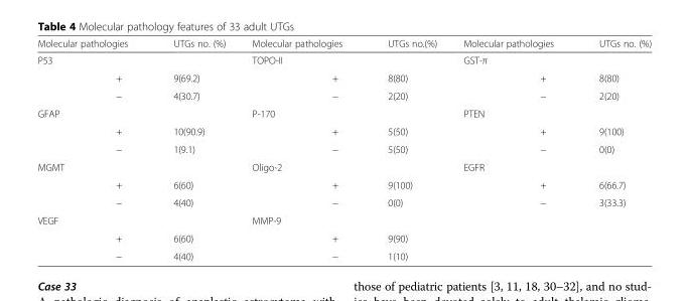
<table><thead><tr><td colspan="2">Molecular pathologies</td><td rowspan="2">UTGs no. (%)</td><td colspan="2">Molecular pathologies</td><td rowspan="2">UTGs no.(%)</td><td colspan="2">Molecular pathologies</td><td rowspan="2">UTGs no. (%)</td></tr><tr><td>P53</td><td></td><td>TOPO-II</td><td></td><td>GST-π</td><td></td></tr></thead><tbody><tr><td></td><td>+</td><td>9(69.2)</td><td></td><td>+</td><td>8(80)</td><td></td><td>+</td><td>8(80)</td></tr><tr><td></td><td>−</td><td>4(30.7)</td><td></td><td>−</td><td>2(20)</td><td></td><td>−</td><td>2(20)</td></tr><tr><td rowspan="3">GFAP</td><td></td><td></td><td>P-170</td><td></td><td></td><td>PTEN</td><td></td><td></td></tr><tr><td>+</td><td>10(90.9)</td><td></td><td>+</td><td>5(50)</td><td></td><td>+</td><td>9(100)</td></tr><tr><td>−</td><td>1(9.1)</td><td></td><td>−</td><td>5(50)</td><td></td><td>−</td><td>0(0)</td></tr><tr><td rowspan="3">MGMT</td><td></td><td></td><td>Oligo-2</td><td></td><td></td><td>EGFR</td><td></td><td></td></tr><tr><td>+</td><td>6(60)</td><td></td><td>+</td><td>9(100)</td><td></td><td>+</td><td>6(66.7)</td></tr><tr><td>−</td><td>4(40)</td><td></td><td>−</td><td>0(0)</td><td></td><td>−</td><td>3(33.3)</td></tr><tr><td rowspan="3">VEGF</td><td></td><td></td><td>MMP-9</td><td></td><td></td><td></td><td></td><td></td></tr><tr><td>+</td><td>6(60)</td><td></td><td>+</td><td>9(90)</td><td></td><td></td><td></td></tr><tr><td>−</td><td>4(40)</td><td></td><td>−</td><td>1(10)</td><td></td><td></td><td></td></tr></tbody></table>